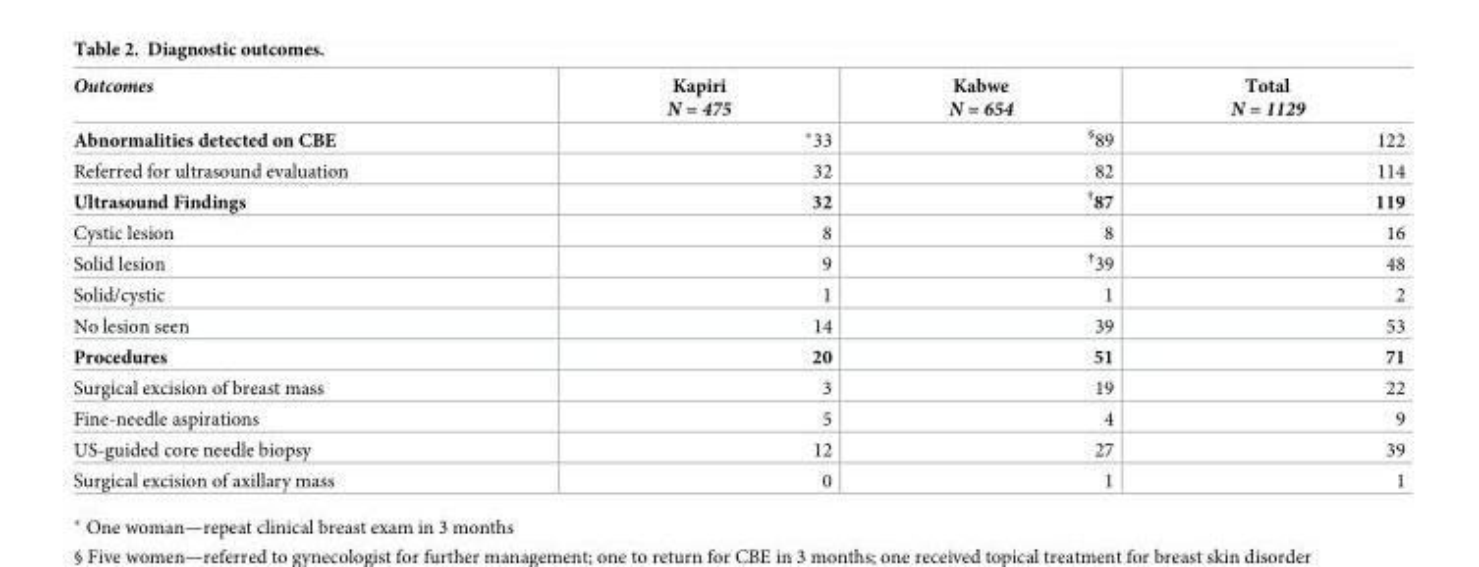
<table><thead><tr><td>Outcomes</td><td>Kapiri N = 475</td><td>Kabwe N = 654</td><td>Total N = 1129</td></tr></thead><tbody><tr><td>Abnormalities detected on CBE</td><td>*33</td><td><sup>§</sup>89</td><td>122</td></tr><tr><td>Referred for ultrasound evaluation</td><td>32</td><td>82</td><td>114</td></tr><tr><td>Ultrasound Findings</td><td>32</td><td><sup>†</sup>87</td><td>119</td></tr><tr><td>Cystic lesion</td><td>8</td><td>8</td><td>16</td></tr><tr><td>Solid lesion</td><td>9</td><td><sup>†</sup>39</td><td>48</td></tr><tr><td>Solid/cystic</td><td>1</td><td>1</td><td>2</td></tr><tr><td>No lesion seen</td><td>14</td><td>39</td><td>53</td></tr><tr><td>Procedures</td><td>20</td><td>51</td><td>71</td></tr><tr><td>Surgical excision of breast mass</td><td>3</td><td>19</td><td>22</td></tr><tr><td>Fine-needle aspirations</td><td>5</td><td>4</td><td>9</td></tr><tr><td>US-guided core needle biopsy</td><td>12</td><td>27</td><td>39</td></tr><tr><td>Surgical excision of axillary mass</td><td>0</td><td>1</td><td>1</td></tr></tbody></table>